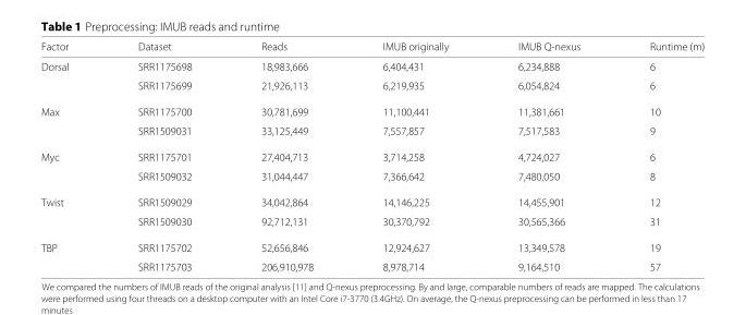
<table><thead><tr><td>Factor</td><td>Dataset</td><td>Reads</td><td>IMUB originally</td><td>IMUB Q-nexus</td><td>Runtime (m)</td></tr></thead><tbody><tr><td rowspan="2">Dorsal</td><td>SRR1175698</td><td>18,983,666</td><td>6,404,431</td><td>6,234,888</td><td>6</td></tr><tr><td>SRR1175699</td><td>21,926,113</td><td>6,219,935</td><td>6,054,824</td><td>6</td></tr><tr><td rowspan="2">Max</td><td>SRR1175700</td><td>30,781,699</td><td>11,100,441</td><td>11,381,661</td><td>10</td></tr><tr><td>SRR1509031</td><td>33,125,449</td><td>7,557,857</td><td>7,517,583</td><td>9</td></tr><tr><td rowspan="2">Myc</td><td>SRR1175701</td><td>27,404,713</td><td>3,714,258</td><td>4,724,027</td><td>6</td></tr><tr><td>SRR1509032</td><td>31,044,447</td><td>7,366,642</td><td>7,480,050</td><td>8</td></tr><tr><td rowspan="2">Twist</td><td>SRR1509029</td><td>34,042,864</td><td>14,146,225</td><td>14,455,901</td><td>12</td></tr><tr><td>SRR1509030</td><td>92,712,131</td><td>30,370,792</td><td>30,565,366</td><td>31</td></tr><tr><td rowspan="2">TBP</td><td>SRR1175702</td><td>52,656,846</td><td>12,924,627</td><td>13,349,578</td><td>19</td></tr><tr><td>SRR1175703</td><td>206,910,978</td><td>8,978,714</td><td>9,164,510</td><td>57</td></tr></tbody></table>